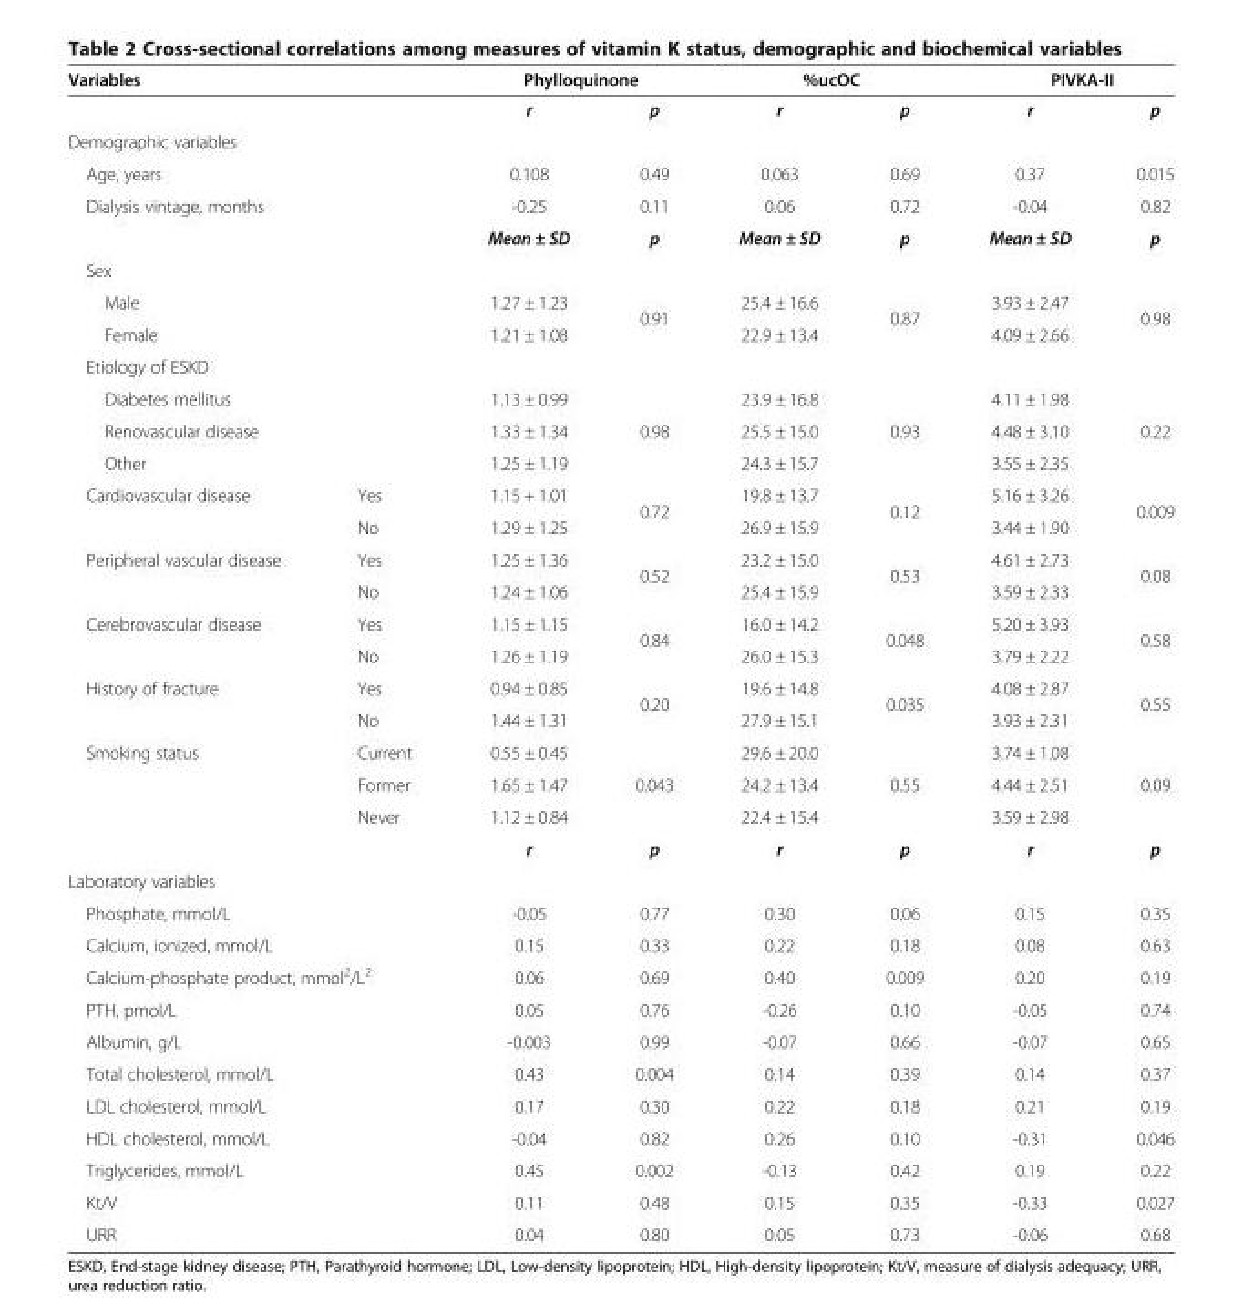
<table><thead><tr><td colspan="2">Variables</td><td colspan="2">Phylloquinone</td><td colspan="2">%ucOC</td><td colspan="2">PIVKA-II</td></tr></thead><tbody><tr><td colspan="2"></td><td>r</td><td>p</td><td>r</td><td>p</td><td>r</td><td>p</td></tr><tr><td colspan="8">Demographic variables</td></tr><tr><td colspan="2">Age, years</td><td>0.108</td><td>0.49</td><td>0.063</td><td>0.69</td><td>0.37</td><td>0.015</td></tr><tr><td rowspan="2" colspan="2">Dialysis vintage, months</td><td>-0.25</td><td>0.11</td><td>0.06</td><td>0.72</td><td>-0.04</td><td>0.82</td></tr><tr><td>Mean ± SD</td><td>p</td><td>Mean ± SD</td><td>p</td><td>Mean ± SD</td><td>p</td></tr><tr><td colspan="8">Sex</td></tr><tr><td colspan="2">Male</td><td>1.27 ± 1.23</td><td rowspan="2">0.91</td><td>25.4 ± 16.6</td><td rowspan="2">0.87</td><td>3.93 ± 2.47</td><td rowspan="2">0.98</td></tr><tr><td colspan="2">Female</td><td>1.21 ± 1.08</td><td>22.9 ± 13.4</td><td>4.09 ± 2.66</td></tr><tr><td colspan="8">Etiology of ESKD</td></tr><tr><td colspan="2">Diabetes mellitus</td><td>1.13 ± 0.99</td><td rowspan="3">0.98</td><td>23.9 ± 16.8</td><td rowspan="3">0.93</td><td>4.11 ± 1.98</td><td rowspan="3">0.22</td></tr><tr><td colspan="2">Renovascular disease</td><td>1.33 ± 1.34</td><td>25.5 ± 15.0</td><td>4.48 ± 3.10</td></tr><tr><td colspan="2">Other</td><td>1.25 ± 1.19</td><td>24.3 ± 15.7</td><td>3.55 ± 2.35</td></tr><tr><td rowspan="2">Cardiovascular disease</td><td>Yes</td><td>1.15 + 1.01</td><td rowspan="2">0.72</td><td>19.8 ± 13.7</td><td rowspan="2">0.12</td><td>5.16 ± 3.26</td><td rowspan="2">0.009</td></tr><tr><td>No</td><td>1.29 ± 1.25</td><td>26.9 ± 15.9</td><td>3.44 ± 1.90</td></tr><tr><td rowspan="2">Peripheral vascular disease</td><td>Yes</td><td>1.25 ± 1.36</td><td rowspan="2">0.52</td><td>23.2 ± 15.0</td><td rowspan="2">0.53</td><td>4.61 ± 2.73</td><td rowspan="2">0.08</td></tr><tr><td>No</td><td>1.24 ± 1.06</td><td>25.4 ± 15.9</td><td>3.59 ± 2.33</td></tr><tr><td rowspan="2">Cerebrovascular disease</td><td>Yes</td><td>1.15 ± 1.15</td><td rowspan="2">0.84</td><td>16.0 ± 14.2</td><td rowspan="2">0.048</td><td>5.20 ± 3.93</td><td rowspan="2">0.58</td></tr><tr><td>No</td><td>1.26 ± 1.19</td><td>26.0 ± 15.3</td><td>3.79 ± 2.22</td></tr><tr><td rowspan="2">History of fracture</td><td>Yes</td><td>0.94 ± 0.85</td><td rowspan="2">0.20</td><td>19.6 ± 14.8</td><td rowspan="2">0.035</td><td>4.08 ± 2.87</td><td rowspan="2">0.55</td></tr><tr><td>No</td><td>1.44 ± 1.31</td><td>27.9 ± 15.1</td><td>3.93 ± 2.31</td></tr><tr><td rowspan="3">Smoking status</td><td>Current</td><td>0.55 ± 0.45</td><td rowspan="3">0.043</td><td>29.6 ± 20.0</td><td rowspan="3">0.55</td><td>3.74 ± 1.08</td><td rowspan="3">0.09</td></tr><tr><td>Former</td><td>1.65 ± 1.47</td><td>24.2 ± 13.4</td><td>4.44 ± 2.51</td></tr><tr><td>Never</td><td>1.12 ± 0.84</td><td>22.4 ± 15.4</td><td>3.59 ± 2.98</td></tr><tr><td colspan="2"></td><td>r</td><td>p</td><td>r</td><td>p</td><td>r</td><td>p</td></tr><tr><td colspan="8">Laboratory variables</td></tr><tr><td colspan="2">Phosphate, mmol/L</td><td>-0.05</td><td>0.77</td><td>0.30</td><td>0.06</td><td>0.15</td><td>0.35</td></tr><tr><td colspan="2">Calcium, ionized, mmol/L</td><td>0.15</td><td>0.33</td><td>0.22</td><td>0.18</td><td>0.08</td><td>0.63</td></tr><tr><td colspan="2">Calcium-phosphate product, mmol<sup>2</sup>/L<sup>2</sup></td><td>0.06</td><td>0.69</td><td>0.40</td><td>0.009</td><td>0.20</td><td>0.19</td></tr><tr><td colspan="2">PTH, pmol/L</td><td>0.05</td><td>0.76</td><td>-0.26</td><td>0.10</td><td>-0.05</td><td>0.74</td></tr><tr><td colspan="2">Albumin, g/L</td><td>-0.003</td><td>0.99</td><td>-0.07</td><td>0.66</td><td>-0.07</td><td>0.65</td></tr><tr><td colspan="2">Total cholesterol, mmol/L</td><td>0.43</td><td>0.004</td><td>0.14</td><td>0.39</td><td>0.14</td><td>0.37</td></tr><tr><td colspan="2">LDL cholesterol, mmol/L</td><td>0.17</td><td>0.30</td><td>0.22</td><td>0.18</td><td>0.21</td><td>0.19</td></tr><tr><td colspan="2">HDL cholesterol, mmol/L</td><td>-0.04</td><td>0.82</td><td>0.26</td><td>0.10</td><td>-0.31</td><td>0.046</td></tr><tr><td colspan="2">Triglycerides, mmol/L</td><td>0.45</td><td>0.002</td><td>-0.13</td><td>0.42</td><td>0.19</td><td>0.22</td></tr><tr><td colspan="2">Kt/V</td><td>0.11</td><td>0.48</td><td>0.15</td><td>0.35</td><td>-0.33</td><td>0.027</td></tr><tr><td colspan="2">URR</td><td>0.04</td><td>0.80</td><td>0.05</td><td>0.73</td><td>-0.06</td><td>0.68</td></tr></tbody></table>